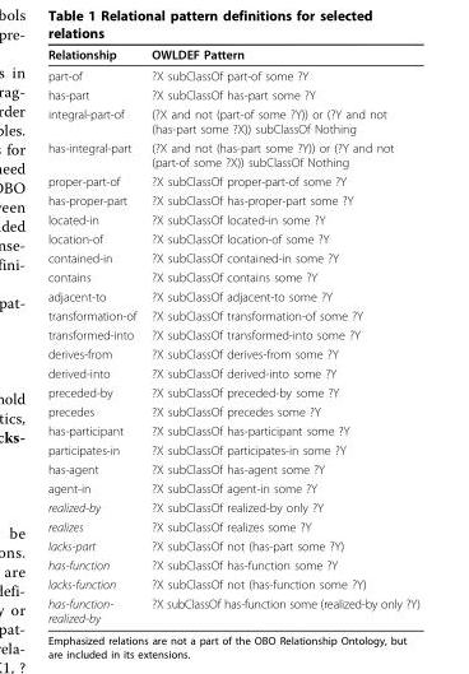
<table><thead><tr><td>Relationship</td><td>OWLDEF Pattern</td></tr></thead><tbody><tr><td>part-of</td><td>?X subClassOf part-of some ?Y</td></tr><tr><td>has-part</td><td>?X subClassOf has-part some ?Y</td></tr><tr><td>integral-part-of</td><td>(?X and not (part-of some ?Y)) or (?Y and not (has-part some ?X)) subClassOf Nothing</td></tr><tr><td>has-integral-part</td><td>(?X and not (has-part some ?Y)) or (?Y and not (part-of some ?X)) subClassOf Nothing</td></tr><tr><td>proper-part-of</td><td>?X subClassOf proper-part-of some ?Y</td></tr><tr><td>has-proper-part</td><td>?X subClassOf has-proper-part some ?Y</td></tr><tr><td>located-in</td><td>?X subClassOf located-in some ?Y</td></tr><tr><td>location-of</td><td>?X subClassOf location-of some ?Y</td></tr><tr><td>contained-in</td><td>?X subClassOf contained-in some ?Y</td></tr><tr><td>contains</td><td>?X subClassOf contains some ?Y</td></tr><tr><td>adjacent-to</td><td>?X subClassOf adjacent-to some ?Y</td></tr><tr><td>transformation-of</td><td>?X subClassOf transformation-of some ?Y</td></tr><tr><td>transformed-into</td><td>?X subClassOf transformed-into some ?Y</td></tr><tr><td>derives-from</td><td>?X subClassOf derives-from some ?Y</td></tr><tr><td>derived-into</td><td>?X subClassOf derived-into some ?Y</td></tr><tr><td>preceded-by</td><td>?X subClassOf preceded-by some ?Y</td></tr><tr><td>precedes</td><td>?X subClassOf precedes some ?Y</td></tr><tr><td>has-participant</td><td>?X subClassOf has-participant some ?Y</td></tr><tr><td>participates-in</td><td>?X subClassOf participates-in some ?Y</td></tr><tr><td>has-agent</td><td>?X subClassOf has-agent some ?Y</td></tr><tr><td>agent-in</td><td>?X subClassOf agent-in some ?Y</td></tr><tr><td>realized-by</td><td>?X subClassOf realized-by only ?Y</td></tr><tr><td>realizes</td><td>?X subClassOf realizes some ?Y</td></tr><tr><td>lacks-part</td><td>?X subClassOf not (has-part some ?Y)</td></tr><tr><td>has-function</td><td>?X subClassOf has-function some ?Y</td></tr><tr><td>lacks-function</td><td>?X subClassOf not (has-function some ?Y)</td></tr><tr><td>has-function- realized-by</td><td>?X subClassOf has-function some (realized-by only ?Y)</td></tr></tbody></table>